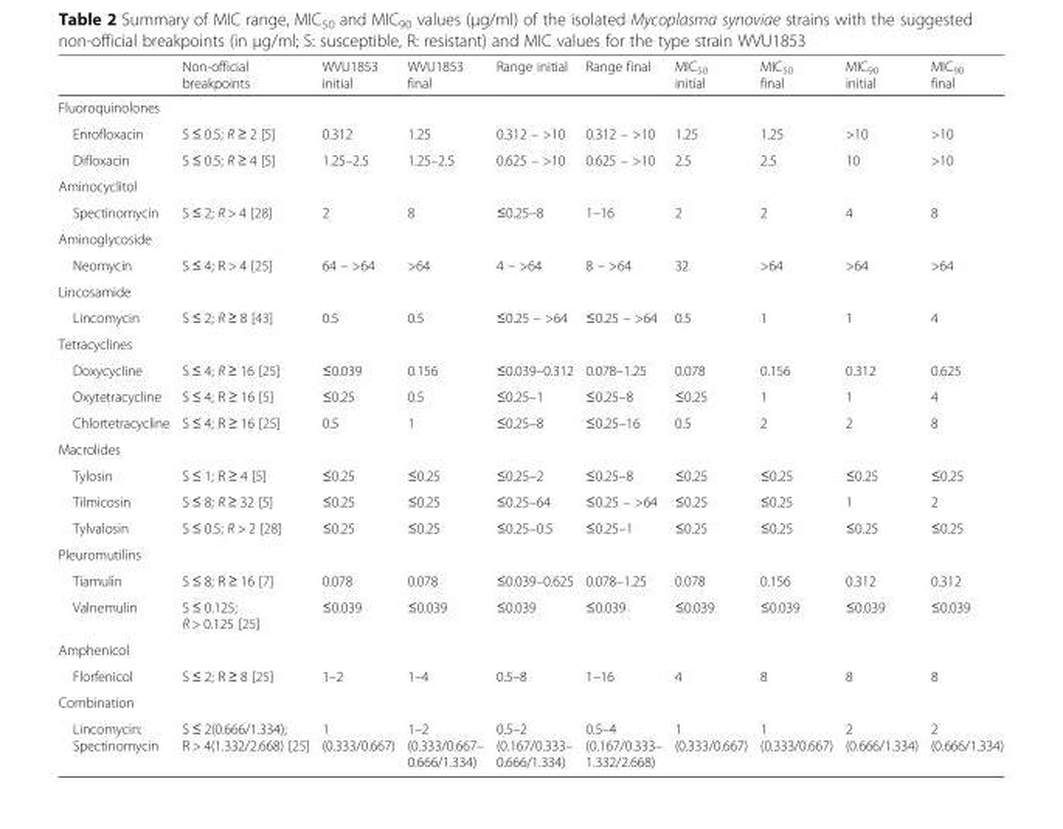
<table><thead><tr><td></td><td>Non-official breakpoints</td><td>WVU1853 initial</td><td>WVU1853 final</td><td>Range initial</td><td>Range final</td><td>MIC<sub>50</sub> initial</td><td>MIC<sub>50</sub> final</td><td>MIC<sub>90</sub> initial</td><td>MIC<sub>90</sub> final</td></tr></thead><tbody><tr><td colspan="10">Fluoroquinolones</td></tr><tr><td>Enrofloxacin</td><td>S ≤ 0.5; R ≥ 2 [5]</td><td>0.312</td><td>1.25</td><td>0.312 – &gt;10</td><td>0.312 – &gt;10</td><td>1.25</td><td>1.25</td><td>&gt;10</td><td>&gt;10</td></tr><tr><td>Difloxacin</td><td>S ≤ 0.5; R ≥ 4 [5]</td><td>1.25–2.5</td><td>1.25–2.5</td><td>0.625 – &gt;10</td><td>0.625 – &gt;10</td><td>2.5</td><td>2.5</td><td>10</td><td>&gt;10</td></tr><tr><td colspan="10">Aminocyclitol</td></tr><tr><td>Spectinomycin</td><td>S ≤ 2; R &gt; 4 [28]</td><td>2</td><td>8</td><td>≤0.25–8</td><td>1–16</td><td>2</td><td>2</td><td>4</td><td>8</td></tr><tr><td colspan="10">Aminoglycoside</td></tr><tr><td>Neomycin</td><td>S ≤ 4; R &gt; 4 [25]</td><td>64 – &gt;64</td><td>&gt;64</td><td>4 – &gt;64</td><td>8 – &gt;64</td><td>32</td><td>&gt;64</td><td>&gt;64</td><td>&gt;64</td></tr><tr><td colspan="10">Lincosamide</td></tr><tr><td>Lincomycin</td><td>S ≤ 2; R ≥ 8 [43]</td><td>0.5</td><td>0.5</td><td>≤0.25 – &gt;64</td><td>≤0.25 – &gt;64</td><td>0.5</td><td>1</td><td>1</td><td>4</td></tr><tr><td colspan="10">Tetracyclines</td></tr><tr><td>Doxycycline</td><td>S ≤ 4; R ≥ 16 [25]</td><td>≤0.039</td><td>0.156</td><td>≤0.039–0.312</td><td>0.078–1.25</td><td>0.078</td><td>0.156</td><td>0.312</td><td>0.625</td></tr><tr><td>Oxytetracycline</td><td>S ≤ 4; R ≥ 16 [5]</td><td>≤0.25</td><td>0.5</td><td>≤0.25–1</td><td>≤0.25–8</td><td>≤0.25</td><td>1</td><td>1</td><td>4</td></tr><tr><td>Chlortetracycline</td><td>S ≤ 4; R ≥ 16 [25]</td><td>0.5</td><td>1</td><td>≤0.25–8</td><td>≤0.25–16</td><td>0.5</td><td>2</td><td>2</td><td>8</td></tr><tr><td colspan="10">Macrolides</td></tr><tr><td>Tylosin</td><td>S ≤ 1; R ≥ 4 [5]</td><td>≤0.25</td><td>≤0.25</td><td>≤0.25–2</td><td>≤0.25–8</td><td>≤0.25</td><td>≤0.25</td><td>≤0.25</td><td>≤0.25</td></tr><tr><td>Tilmicosin</td><td>S ≤ 8; R ≥ 32 [5]</td><td>≤0.25</td><td>≤0.25</td><td>≤0.25–64</td><td>≤0.25 – &gt;64</td><td>≤0.25</td><td>≤0.25</td><td>1</td><td>2</td></tr><tr><td>Tylvalosin</td><td>S ≤ 0.5; R &gt; 2 [28]</td><td>≤0.25</td><td>≤0.25</td><td>≤0.25–0.5</td><td>≤0.25–1</td><td>≤0.25</td><td>≤0.25</td><td>≤0.25</td><td>≤0.25</td></tr><tr><td colspan="10">Pleuromutilins</td></tr><tr><td>Tiamulin</td><td>S ≤ 8; R ≥ 16 [7]</td><td>0.078</td><td>0.078</td><td>≤0.039–0.625</td><td>0.078–1.25</td><td>0.078</td><td>0.156</td><td>0.312</td><td>0.312</td></tr><tr><td>Valnemulin</td><td>S ≤ 0.125; R &gt; 0.125 [25]</td><td>≤0.039</td><td>≤0.039</td><td>≤0.039</td><td>≤0.039</td><td>≤0.039</td><td>≤0.039</td><td>≤0.039</td><td>≤0.039</td></tr><tr><td colspan="10">Amphenicol</td></tr><tr><td>Florfenicol</td><td>S ≤ 2; R ≥ 8 [25]</td><td>1–2</td><td>1–4</td><td>0.5–8</td><td>1–16</td><td>4</td><td>8</td><td>8</td><td>8</td></tr><tr><td colspan="10">Combination</td></tr><tr><td>Lincomycin: Spectinomycin</td><td>S ≤ 2(0.666/1.334); R &gt; 4(1.332/2.668) [25]</td><td>1 (0.333/0.667)</td><td>1–2 (0.333/0.667– 0.666/1.334)</td><td>0.5–2 (0.167/0.333– 0.666/1.334)</td><td>0.5–4 (0.167/0.333– 1.332/2.668)</td><td>1 (0.333/0.667)</td><td>1 (0.333/0.667)</td><td>2 (0.666/1.334)</td><td>2 (0.666/1.334)</td></tr></tbody></table>